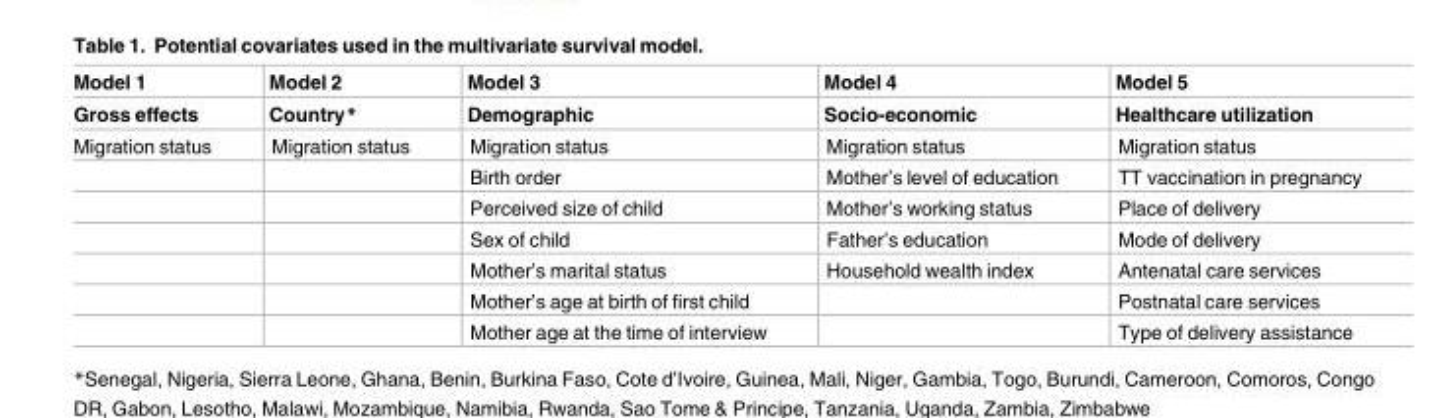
<table><thead><tr><td rowspan="2">Model 1 Gross effects</td><td rowspan="2">Model 2 Country*</td><td rowspan="2">Model 3 Demographic</td><td rowspan="2">Model 4 Socio-economic</td><td rowspan="2">Model 5 Healthcare utilization</td></tr><tr></tr></thead><tbody><tr><td rowspan="7">Migration status</td><td>Migration status</td><td>Migration status</td><td>Migration status</td><td>Migration status</td></tr><tr><td></td><td>Birth order</td><td>Mother’s level of education</td><td>TT vaccination in pregnancy</td></tr><tr><td></td><td>Perceived size of child</td><td>Mother’s working status</td><td>Place of delivery</td></tr><tr><td></td><td>Sex of child</td><td>Father’s education</td><td>Mode of delivery</td></tr><tr><td></td><td>Mother’s marital status</td><td>Household wealth index</td><td>Antenatal care services</td></tr><tr><td></td><td>Mother’s age at birth of first child</td><td></td><td>Postnatal care services</td></tr><tr><td></td><td>Mother age at the time of interview</td><td></td><td>Type of delivery assistance</td></tr></tbody></table>